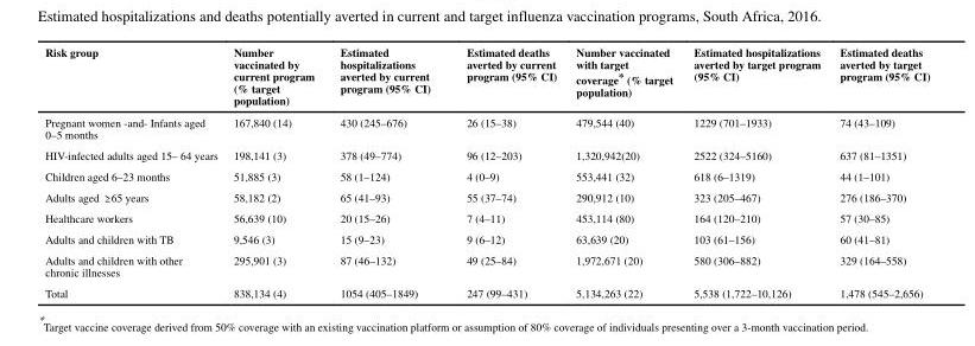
<table><thead><tr><td>Risk group</td><td>Number vaccinated by current program (% target population)</td><td>Estimated hospitalizations averted by current program (95% CI)</td><td>Estimated deaths averted by current program (95% CI)</td><td>Number vaccinated with target coverage* (% target population)</td><td>Estimated hospitalizations averted by target program (95% CI)</td><td>Estimated deaths averted by target program (95% CI)</td></tr></thead><tbody><tr><td>Pregnant women -and- Infants aged 0–5 months</td><td>167,840 (14)</td><td>430 (245–676)</td><td>26 (15–38)</td><td>479,544 (40)</td><td>1229 (701–1933)</td><td>74 (43–109)</td></tr><tr><td>HIV-infected adults aged 15– 64 years</td><td>198,141 (3)</td><td>378 (49–774)</td><td>96 (12–203)</td><td>1,320,942(20)</td><td>2522 (324–5160)</td><td>637 (81–1351)</td></tr><tr><td>Children aged 6–23 months</td><td>51,885 (3)</td><td>58 (1–124)</td><td>4 (0–9)</td><td>553,441 (32)</td><td>618 (6–1319)</td><td>44 (1–101)</td></tr><tr><td>Adults aged ≥ 65 years</td><td>58,182 (2)</td><td>65 (41–93)</td><td>55 (37–74)</td><td>290,912 (10)</td><td>323 (205–467)</td><td>276 (186–370)</td></tr><tr><td>Healthcare workers</td><td>56,639 (10)</td><td>20 (15–26)</td><td>7 (4–11)</td><td>453,114 (80)</td><td>164 (120–210)</td><td>57 (30–85)</td></tr><tr><td>Adults and children with TB</td><td>9,546 (3)</td><td>15 (9–23)</td><td>9 (6–12)</td><td>63,639 (20)</td><td>103 (61–156)</td><td>60 (41–81)</td></tr><tr><td>Adults and children with other chronic illnesses</td><td>295,901 (3)</td><td>87 (46–132)</td><td>49 (25–84)</td><td>1,972,671 (20)</td><td>580 (306–882)</td><td>329 (164–558)</td></tr><tr><td>Total</td><td>838,134 (4)</td><td>1054 (405–1849)</td><td>247 (99–431)</td><td>5,134,263 (22)</td><td>5,538 (1,722–10,126)</td><td>1,478 (545–2,656)</td></tr></tbody></table>